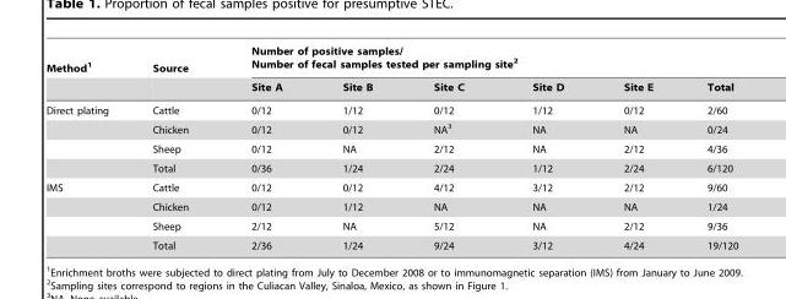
<table><thead><tr><td rowspan="2">Method<sup>1</sup></td><td rowspan="2">Source</td><td colspan="6">Number of positive samples/ Number of fecal samples tested per sampling site<sup>2</sup></td></tr><tr><td>Site A</td><td>Site B</td><td>Site C</td><td>Site D</td><td>Site E</td><td>Total</td></tr></thead><tbody><tr><td rowspan="4">Direct plating</td><td>Cattle</td><td>0/12</td><td>1/12</td><td>0/12</td><td>1/12</td><td>0/12</td><td>2/60</td></tr><tr><td>Chicken</td><td>0/12</td><td>0/12</td><td>NA<sup>3</sup></td><td>NA</td><td>NA</td><td>0/24</td></tr><tr><td>Sheep</td><td>0/12</td><td>NA</td><td>2/12</td><td>NA</td><td>2/12</td><td>4/36</td></tr><tr><td>Total</td><td>0/36</td><td>1/24</td><td>2/24</td><td>1/12</td><td>2/24</td><td>6/120</td></tr><tr><td rowspan="4">IMS</td><td>Cattle</td><td>0/12</td><td>0/12</td><td>4/12</td><td>3/12</td><td>2/12</td><td>9/60</td></tr><tr><td>Chicken</td><td>0/12</td><td>1/12</td><td>NA</td><td>NA</td><td>NA</td><td>1/24</td></tr><tr><td>Sheep</td><td>2/12</td><td>NA</td><td>5/12</td><td>NA</td><td>2/12</td><td>9/36</td></tr><tr><td>Total</td><td>2/36</td><td>1/24</td><td>9/24</td><td>3/12</td><td>4/24</td><td>19/120</td></tr></tbody></table>